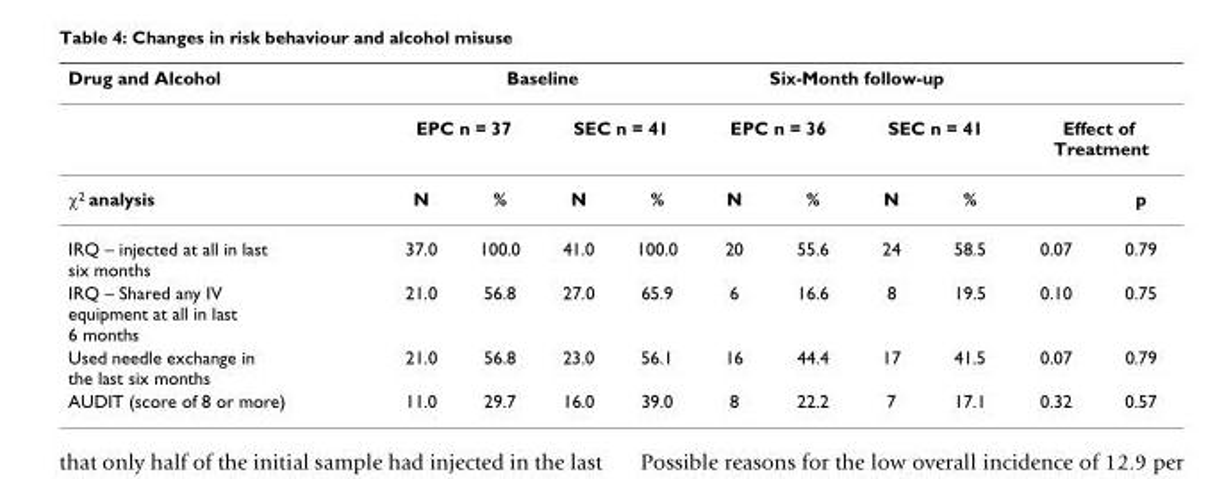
<table><thead><tr><td rowspan="3">Drug and Alcohol χ<sup>2</sup> analysis</td><td colspan="4">Baseline</td><td colspan="4">Six-Month follow-up</td><td></td><td></td></tr><tr><td colspan="2">EPC n = 37</td><td colspan="2">SEC n = 41</td><td colspan="2">EPC n = 36</td><td colspan="2">SEC n = 41</td><td colspan="2">Effect of Treatment</td></tr><tr><td>N</td><td>%</td><td>N</td><td>%</td><td>N</td><td>%</td><td>N</td><td>%</td><td></td><td>p</td></tr></thead><tbody><tr><td>IRQ – injected at all in last six months</td><td>37.0</td><td>100.0</td><td>41.0</td><td>100.0</td><td>20</td><td>55.6</td><td>24</td><td>58.5</td><td>0.07</td><td>0.79</td></tr><tr><td>IRQ – Shared any IV equipment at all in last 6 months</td><td>21.0</td><td>56.8</td><td>27.0</td><td>65.9</td><td>6</td><td>16.6</td><td>8</td><td>19.5</td><td>0.10</td><td>0.75</td></tr><tr><td>Used needle exchange in the last six months</td><td>21.0</td><td>56.8</td><td>23.0</td><td>56.1</td><td>16</td><td>44.4</td><td>17</td><td>41.5</td><td>0.07</td><td>0.79</td></tr><tr><td>AUDIT (score of 8 or more)</td><td>11.0</td><td>29.7</td><td>16.0</td><td>39.0</td><td>8</td><td>22.2</td><td>7</td><td>17.1</td><td>0.32</td><td>0.57</td></tr></tbody></table>